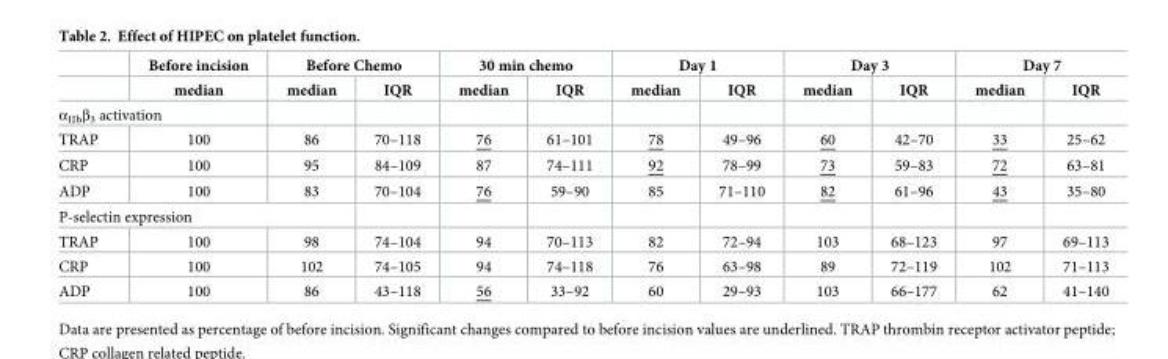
<table><thead><tr><td rowspan="2"></td><td rowspan="2">Before incision median</td><td colspan="2">Before Chemo</td><td colspan="2">30 min chemo</td><td colspan="2">Day 1</td><td colspan="2">Day 3</td><td colspan="2">Day 7</td></tr><tr><td>median</td><td>IQR</td><td>median</td><td>IQR</td><td>median</td><td>IQR</td><td>median</td><td>IQR</td><td>median</td><td>IQR</td></tr></thead><tbody><tr><td colspan="12">α<sub>IIb</sub>β<sub>3</sub> activation</td></tr><tr><td>TRAP</td><td>100</td><td>86</td><td>70–118</td><td>76</td><td>61–101</td><td>78</td><td>49–96</td><td>60</td><td>42–70</td><td>33</td><td>25–62</td></tr><tr><td>CRP</td><td>100</td><td>95</td><td>84–109</td><td>87</td><td>74–111</td><td>92</td><td>78–99</td><td>73</td><td>59–83</td><td>72</td><td>63–81</td></tr><tr><td>ADP</td><td>100</td><td>83</td><td>70–104</td><td>76</td><td>59–90</td><td>85</td><td>71–110</td><td>82</td><td>61–96</td><td>43</td><td>35–80</td></tr><tr><td colspan="12">P-selectin expression</td></tr><tr><td>TRAP</td><td>100</td><td>98</td><td>74–104</td><td>94</td><td>70–113</td><td>82</td><td>72–94</td><td>103</td><td>68–123</td><td>97</td><td>69–113</td></tr><tr><td>CRP</td><td>100</td><td>102</td><td>74–105</td><td>94</td><td>74–118</td><td>76</td><td>63–98</td><td>89</td><td>72–119</td><td>102</td><td>71–113</td></tr><tr><td>ADP</td><td>100</td><td>86</td><td>43–118</td><td>56</td><td>33–92</td><td>60</td><td>29–93</td><td>103</td><td>66–177</td><td>62</td><td>41–140</td></tr></tbody></table>